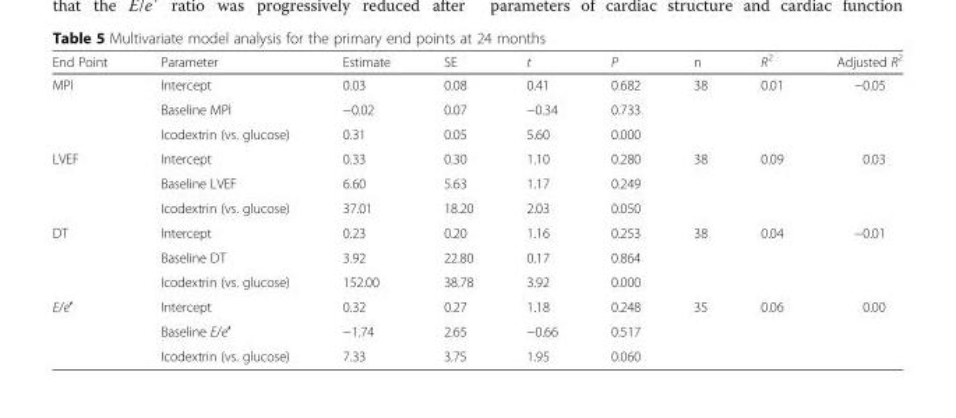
<table><thead><tr><td>End Point</td><td>Parameter</td><td>Estimate</td><td>SE</td><td>t</td><td>P</td><td>n</td><td>R<sup>2</sup></td><td>Adjusted R<sup>2</sup></td></tr></thead><tbody><tr><td rowspan="3">MPI</td><td>Intercept</td><td>0.03</td><td>0.08</td><td>0.41</td><td>0.682</td><td>38</td><td>0.01</td><td>−0.05</td></tr><tr><td>Baseline MPI</td><td>−0.02</td><td>0.07</td><td>−0.34</td><td>0.733</td><td></td><td></td><td></td></tr><tr><td>Icodextrin (vs. glucose)</td><td>0.31</td><td>0.05</td><td>5.60</td><td>0.000</td><td></td><td></td><td></td></tr><tr><td rowspan="3">LVEF</td><td>Intercept</td><td>0.33</td><td>0.30</td><td>1.10</td><td>0.280</td><td>38</td><td>0.09</td><td>0.03</td></tr><tr><td>Baseline LVEF</td><td>6.60</td><td>5.63</td><td>1.17</td><td>0.249</td><td></td><td></td><td></td></tr><tr><td>Icodextrin (vs. glucose)</td><td>37.01</td><td>18.20</td><td>2.03</td><td>0.050</td><td></td><td></td><td></td></tr><tr><td rowspan="3">DT</td><td>Intercept</td><td>0.23</td><td>0.20</td><td>1.16</td><td>0.253</td><td>38</td><td>0.04</td><td>−0.01</td></tr><tr><td>Baseline DT</td><td>3.92</td><td>22.80</td><td>0.17</td><td>0.864</td><td></td><td></td><td></td></tr><tr><td>Icodextrin (vs. glucose)</td><td>152.00</td><td>38.78</td><td>3.92</td><td>0.000</td><td></td><td></td><td></td></tr><tr><td rowspan="3">E/e′</td><td>Intercept</td><td>0.32</td><td>0.27</td><td>1.18</td><td>0.248</td><td>35</td><td>0.06</td><td>0.00</td></tr><tr><td>Baseline E/e′</td><td>−1.74</td><td>2.65</td><td>−0.66</td><td>0.517</td><td></td><td></td><td></td></tr><tr><td>Icodextrin (vs. glucose)</td><td>7.33</td><td>3.75</td><td>1.95</td><td>0.060</td><td></td><td></td><td></td></tr></tbody></table>